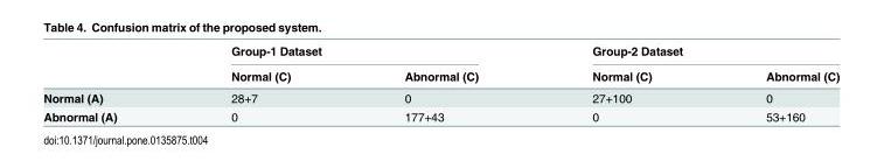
<table><thead><tr><td rowspan="2"></td><td colspan="2">Group-1 Dataset</td><td colspan="2">Group-2 Dataset</td></tr><tr><td>Normal (C)</td><td>Abnormal (C)</td><td>Normal (C)</td><td>Abnormal (C)</td></tr></thead><tbody><tr><td>Normal (A)</td><td>28+7</td><td>0</td><td>27+100</td><td>0</td></tr><tr><td>Abnormal (A)</td><td>0</td><td>177+43</td><td>0</td><td>53+160</td></tr></tbody></table>